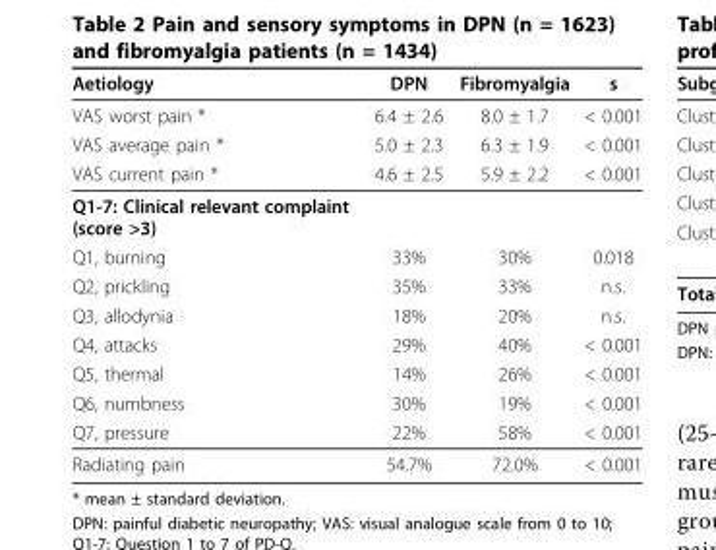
<table><thead><tr><td>Aetiology</td><td>DPN</td><td>Fibromyalgia</td><td>s</td></tr></thead><tbody><tr><td>VAS worst pain *</td><td>6.4 ± 2.6</td><td>8.0 ± 1.7</td><td>&lt; 0.001</td></tr><tr><td>VAS average pain *</td><td>5.0 ± 2.3</td><td>6.3 ± 1.9</td><td>&lt; 0.001</td></tr><tr><td>VAS current pain *</td><td>4.6 ± 2.5</td><td>5.9 ± 2.2</td><td>&lt; 0.001</td></tr><tr><td colspan="4">Q1-7: Clinical relevant complaint (score &gt;3)</td></tr><tr><td>Q1, burning</td><td>33%</td><td>30%</td><td>0.018</td></tr><tr><td>Q2, prickling</td><td>35%</td><td>33%</td><td>n.s.</td></tr><tr><td>Q3, allodynia</td><td>18%</td><td>20%</td><td>n.s.</td></tr><tr><td>Q4, attacks</td><td>29%</td><td>40%</td><td>&lt; 0.001</td></tr><tr><td>Q5, thermal</td><td>14%</td><td>26%</td><td>&lt; 0.001</td></tr><tr><td>Q6, numbness</td><td>30%</td><td>19%</td><td>&lt; 0.001</td></tr><tr><td>Q7, pressure</td><td>22%</td><td>58%</td><td>&lt; 0.001</td></tr><tr><td>Radiating pain</td><td>54.7%</td><td>72.0%</td><td>&lt; 0.001</td></tr></tbody></table>